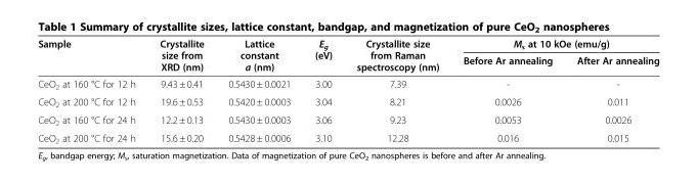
<table><thead><tr><td rowspan="2">Sample</td><td rowspan="2">Crystallite size from XRD (nm)</td><td rowspan="2">Lattice constant a (nm)</td><td rowspan="2">E<sub>g</sub> (eV)</td><td rowspan="2">Crystallite size from Raman spectroscopy (nm)</td><td colspan="2">M<sub>s</sub> at 10 kOe (emu/g)</td></tr><tr><td>Before Ar annealing</td><td>After Ar annealing</td></tr></thead><tbody><tr><td>CeO<sub>2</sub> at 160 °C for 12 h</td><td>9.43 ± 0.41</td><td>0.5430 ± 0.0021</td><td>3.00</td><td>7.39</td><td>-</td><td>-</td></tr><tr><td>CeO<sub>2</sub> at 200 °C for 12 h</td><td>19.6 ± 0.53</td><td>0.5420 ± 0.0003</td><td>3.04</td><td>8.21</td><td>0.0026</td><td>0.011</td></tr><tr><td>CeO<sub>2</sub> at 160 °C for 24 h</td><td>12.2 ± 0.13</td><td>0.5430 ± 0.0003</td><td>3.06</td><td>9.23</td><td>0.0053</td><td>0.0026</td></tr><tr><td>CeO<sub>2</sub> at 200 °C for 24 h</td><td>15.6 ± 0.20</td><td>0.5428 ± 0.0006</td><td>3.10</td><td>12.28</td><td>0.016</td><td>0.015</td></tr></tbody></table>